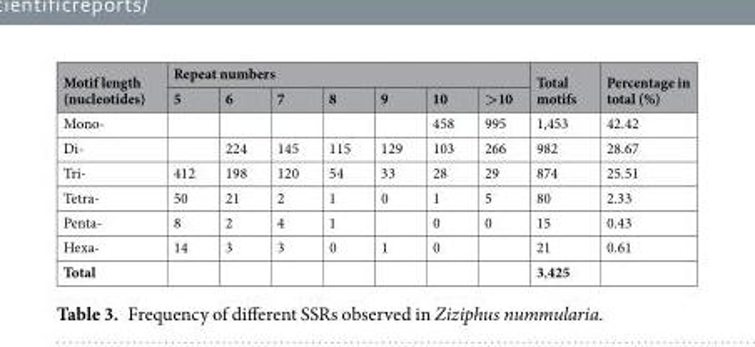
<table><thead><tr><td rowspan="2">Motif length (nucleotides)</td><td colspan="7">Repeat numbers</td><td rowspan="2">Total motifs</td><td rowspan="2">Percentage in total (%)</td></tr><tr><td>5</td><td>6</td><td>7</td><td>8</td><td>9</td><td>10</td><td>&gt;10</td></tr></thead><tbody><tr><td>Mono-</td><td></td><td></td><td></td><td></td><td></td><td>458</td><td>995</td><td>1,453</td><td>42.42</td></tr><tr><td>Di-</td><td></td><td>224</td><td>145</td><td>115</td><td>129</td><td>103</td><td>266</td><td>982</td><td>28.67</td></tr><tr><td>Tri-</td><td>412</td><td>198</td><td>120</td><td>54</td><td>33</td><td>28</td><td>29</td><td>874</td><td>25.51</td></tr><tr><td>Tetra-</td><td>50</td><td>21</td><td>2</td><td>1</td><td>0</td><td>1</td><td>5</td><td>80</td><td>2.33</td></tr><tr><td>Penta-</td><td>8</td><td>2</td><td>4</td><td>1</td><td></td><td>0</td><td>0</td><td>15</td><td>0.43</td></tr><tr><td>Hexa-</td><td>14</td><td>3</td><td>3</td><td>0</td><td>1</td><td>0</td><td></td><td>21</td><td>0.61</td></tr><tr><td>Total</td><td></td><td></td><td></td><td></td><td></td><td></td><td></td><td>3,425</td><td></td></tr></tbody></table>